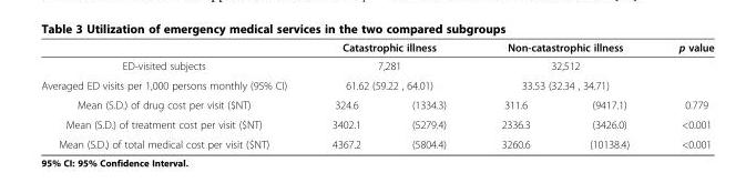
<table><thead><tr><td rowspan="4">ED-visited subjects Averaged ED visits per 1,000 persons monthly (95% CI) Mean (S.D.) of drug cost per visit ($NT)</td><td rowspan="3" colspan="2">Catastrophic illness 7,281 61.62 (59.22 , 64.01)</td><td rowspan="3" colspan="2">Non-catastrophic illness 32,512 33.53 (32.34 , 34.71)</td><td rowspan="4">p value 0.779</td></tr><tr></tr><tr></tr><tr><td>324.6</td><td>(1334.3)</td><td>311.6</td><td>(9417.1)</td></tr></thead><tbody><tr><td>Mean (S.D.) of treatment cost per visit ($NT)</td><td>3402.1</td><td>(5279.4)</td><td>2336.3</td><td>(3426.0)</td><td>&lt;0.001</td></tr><tr><td>Mean (S.D.) of total medical cost per visit ($NT)</td><td>4367.2</td><td>(5804.4)</td><td>3260.6</td><td>(10138.4)</td><td>&lt;0.001</td></tr></tbody></table>